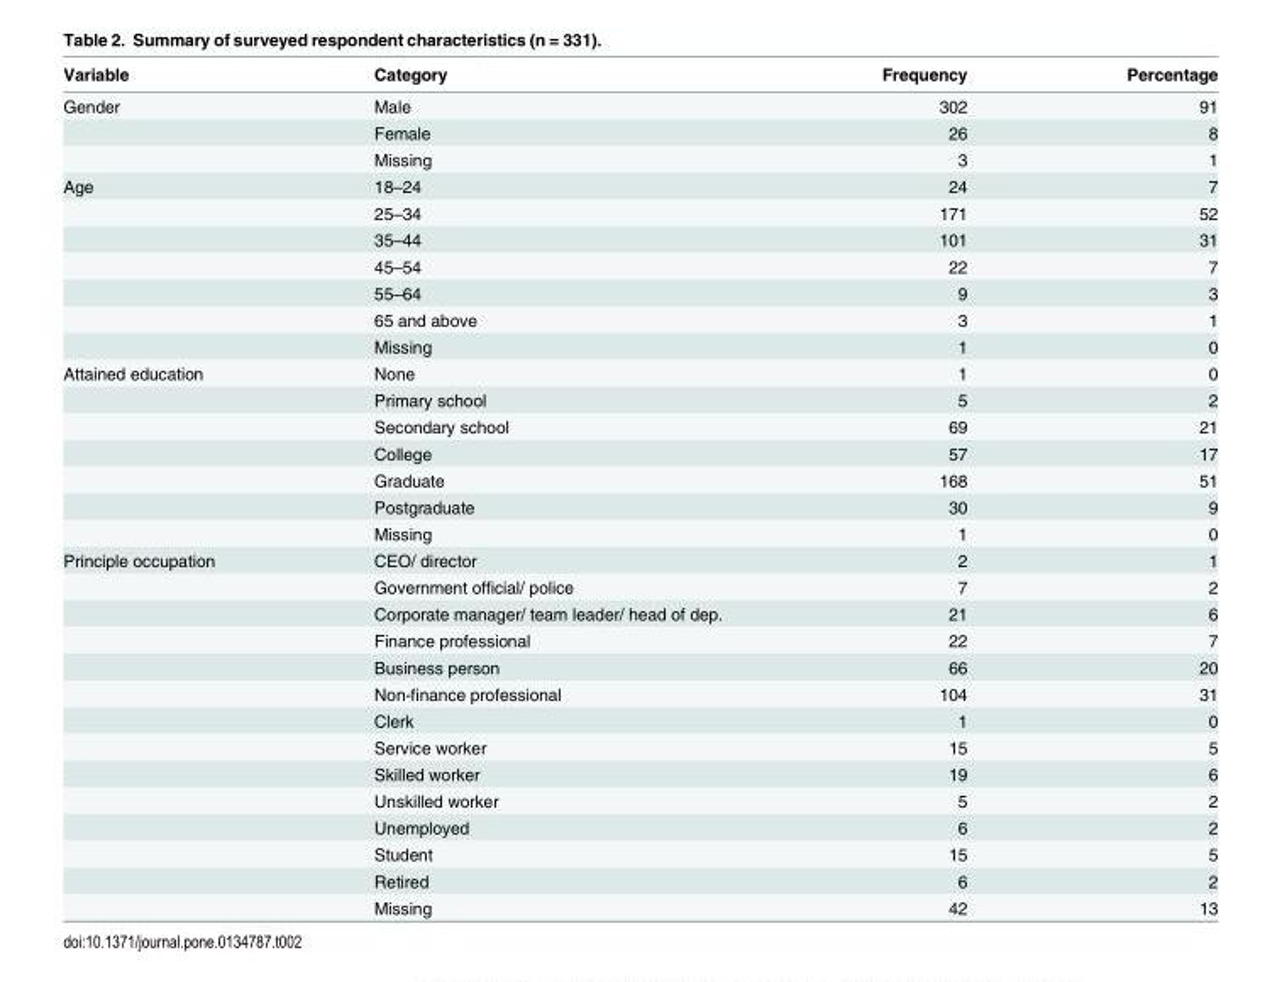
<table><thead><tr><td>Variable</td><td>Category</td><td>Frequency</td><td>Percentage</td></tr></thead><tbody><tr><td rowspan="3">Gender</td><td>Male</td><td>302</td><td>91</td></tr><tr><td>Female</td><td>26</td><td>8</td></tr><tr><td>Missing</td><td>3</td><td>1</td></tr><tr><td rowspan="7">Age</td><td>18–24</td><td>24</td><td>7</td></tr><tr><td>25–34</td><td>171</td><td>52</td></tr><tr><td>35–44</td><td>101</td><td>31</td></tr><tr><td>45–54</td><td>22</td><td>7</td></tr><tr><td>55–64</td><td>9</td><td>3</td></tr><tr><td>65 and above</td><td>3</td><td>1</td></tr><tr><td>Missing</td><td>1</td><td>0</td></tr><tr><td rowspan="7">Attained education</td><td>None</td><td>1</td><td>0</td></tr><tr><td>Primary school</td><td>5</td><td>2</td></tr><tr><td>Secondary school</td><td>69</td><td>21</td></tr><tr><td>College</td><td>57</td><td>17</td></tr><tr><td>Graduate</td><td>168</td><td>51</td></tr><tr><td>Postgraduate</td><td>30</td><td>9</td></tr><tr><td>Missing</td><td>1</td><td>0</td></tr><tr><td rowspan="14">Principle occupation</td><td>CEO/ director</td><td>2</td><td>1</td></tr><tr><td>Government official/ police</td><td>7</td><td>2</td></tr><tr><td>Corporate manager/ team leader/ head of dep.</td><td>21</td><td>6</td></tr><tr><td>Finance professional</td><td>22</td><td>7</td></tr><tr><td>Business person</td><td>66</td><td>20</td></tr><tr><td>Non-finance professional</td><td>104</td><td>31</td></tr><tr><td>Clerk</td><td>1</td><td>0</td></tr><tr><td>Service worker</td><td>15</td><td>5</td></tr><tr><td>Skilled worker</td><td>19</td><td>6</td></tr><tr><td>Unskilled worker</td><td>5</td><td>2</td></tr><tr><td>Unemployed</td><td>6</td><td>2</td></tr><tr><td>Student</td><td>15</td><td>5</td></tr><tr><td>Retired</td><td>6</td><td>2</td></tr><tr><td>Missing</td><td>42</td><td>13</td></tr></tbody></table>